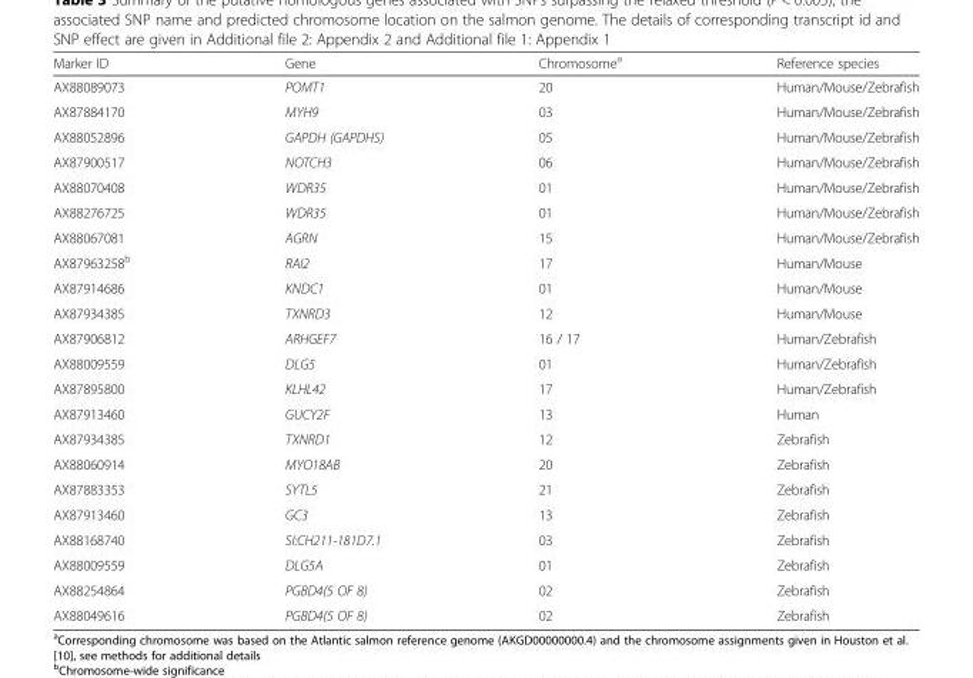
<table><thead><tr><td>Marker ID</td><td>Gene</td><td>Chromosome<sup>a</sup></td><td>Reference species</td></tr></thead><tbody><tr><td>AX88089073</td><td>POMT1</td><td>20</td><td>Human/Mouse/Zebrafish</td></tr><tr><td>AX87884170</td><td>MYH9</td><td>03</td><td>Human/Mouse/Zebrafish</td></tr><tr><td>AX88052896</td><td>GAPDH (GAPDHS)</td><td>05</td><td>Human/Mouse/Zebrafish</td></tr><tr><td>AX87900517</td><td>NOTCH3</td><td>06</td><td>Human/Mouse/Zebrafish</td></tr><tr><td>AX88070408</td><td>WDR35</td><td>01</td><td>Human/Mouse/Zebrafish</td></tr><tr><td>AX88276725</td><td>WDR35</td><td>01</td><td>Human/Mouse/Zebrafish</td></tr><tr><td>AX88067081</td><td>AGRN</td><td>15</td><td>Human/Mouse/Zebrafish</td></tr><tr><td>AX87963258<sup>b</sup></td><td>RAI2</td><td>17</td><td>Human/Mouse</td></tr><tr><td>AX87914686</td><td>KNDC1</td><td>01</td><td>Human/Mouse</td></tr><tr><td>AX87934385</td><td>TXNRD3</td><td>12</td><td>Human/Mouse</td></tr><tr><td>AX87906812</td><td>ARHGEF7</td><td>16 / 17</td><td>Human/Zebrafish</td></tr><tr><td>AX88009559</td><td>DLG5</td><td>01</td><td>Human/Zebrafish</td></tr><tr><td>AX87895800</td><td>KLHL42</td><td>17</td><td>Human/Zebrafish</td></tr><tr><td>AX87913460</td><td>GUCY2F</td><td>13</td><td>Human</td></tr><tr><td>AX87934385</td><td>TXNRD1</td><td>12</td><td>Zebrafish</td></tr><tr><td>AX88060914</td><td>MYO18AB</td><td>20</td><td>Zebrafish</td></tr><tr><td>AX87883353</td><td>SYTL5</td><td>21</td><td>Zebrafish</td></tr><tr><td>AX87913460</td><td>GC3</td><td>13</td><td>Zebrafish</td></tr><tr><td>AX88168740</td><td>SI:CH211-181D7.1</td><td>03</td><td>Zebrafish</td></tr><tr><td>AX88009559</td><td>DLG5A</td><td>01</td><td>Zebrafish</td></tr><tr><td>AX88254864</td><td>PGBD4(5 OF 8)</td><td>02</td><td>Zebrafish</td></tr><tr><td>AX88049616</td><td>PGBD4(5 OF 8)</td><td>02</td><td>Zebrafish</td></tr></tbody></table>